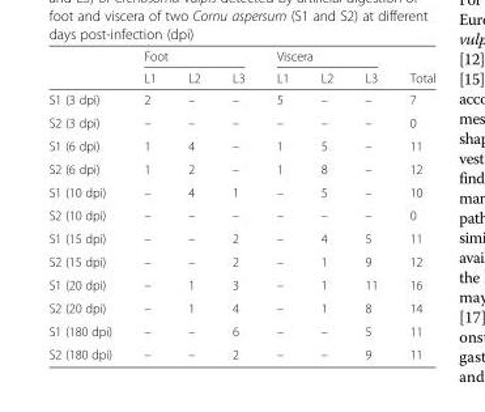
<table><thead><tr><td rowspan="2"></td><td colspan="3">Foot</td><td colspan="3">Viscera</td><td rowspan="2">Total</td></tr><tr><td>L1</td><td>L2</td><td>L3</td><td>L1</td><td>L2</td><td>L3</td></tr></thead><tbody><tr><td>S1 (3 dpi)</td><td>2</td><td>–</td><td>–</td><td>5</td><td>–</td><td>–</td><td>7</td></tr><tr><td>S2 (3 dpi)</td><td>–</td><td>–</td><td>–</td><td>–</td><td>–</td><td>–</td><td>0</td></tr><tr><td>S1 (6 dpi)</td><td>1</td><td>4</td><td>–</td><td>1</td><td>5</td><td>–</td><td>11</td></tr><tr><td>S2 (6 dpi)</td><td>1</td><td>2</td><td>–</td><td>1</td><td>8</td><td>–</td><td>12</td></tr><tr><td>S1 (10 dpi)</td><td>–</td><td>4</td><td>1</td><td>–</td><td>5</td><td>–</td><td>10</td></tr><tr><td>S2 (10 dpi)</td><td>–</td><td>–</td><td>–</td><td>–</td><td>–</td><td>–</td><td>0</td></tr><tr><td>S1 (15 dpi)</td><td>–</td><td>–</td><td>2</td><td>–</td><td>4</td><td>5</td><td>11</td></tr><tr><td>S2 (15 dpi)</td><td>–</td><td>–</td><td>2</td><td>–</td><td>1</td><td>9</td><td>12</td></tr><tr><td>S1 (20 dpi)</td><td>–</td><td>1</td><td>3</td><td>–</td><td>1</td><td>11</td><td>16</td></tr><tr><td>S2 (20 dpi)</td><td>–</td><td>1</td><td>4</td><td>–</td><td>1</td><td>8</td><td>14</td></tr><tr><td>S1 (180 dpi)</td><td>–</td><td>–</td><td>6</td><td>–</td><td>–</td><td>5</td><td>11</td></tr><tr><td>S2 (180 dpi)</td><td>–</td><td>–</td><td>2</td><td>–</td><td>–</td><td>9</td><td>11</td></tr></tbody></table>